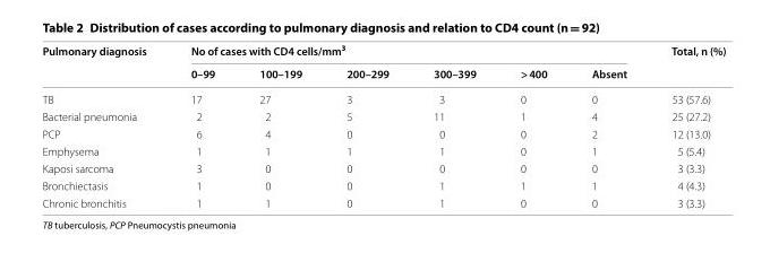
<table><thead><tr><td rowspan="2">Pulmonary diagnosis</td><td colspan="6">No of cases with CD4 cells/mm<sup>3</sup></td><td rowspan="2">Total, n (%)</td></tr><tr><td>0–99</td><td>100–199</td><td>200–299</td><td>300–399</td><td>&gt; 400</td><td>Absent</td></tr></thead><tbody><tr><td>TB</td><td>17</td><td>27</td><td>3</td><td>3</td><td>0</td><td>0</td><td>53 (57.6)</td></tr><tr><td>Bacterial pneumonia</td><td>2</td><td>2</td><td>5</td><td>11</td><td>1</td><td>4</td><td>25 (27.2)</td></tr><tr><td>PCP</td><td>6</td><td>4</td><td>0</td><td>0</td><td>0</td><td>2</td><td>12 (13.0)</td></tr><tr><td>Emphysema</td><td>1</td><td>1</td><td>1</td><td>1</td><td>0</td><td>1</td><td>5 (5.4)</td></tr><tr><td>Kaposi sarcoma</td><td>3</td><td>0</td><td>0</td><td>0</td><td>0</td><td>0</td><td>3 (3.3)</td></tr><tr><td>Bronchiectasis</td><td>1</td><td>0</td><td>0</td><td>1</td><td>1</td><td>1</td><td>4 (4.3)</td></tr><tr><td>Chronic bronchitis</td><td>1</td><td>1</td><td>0</td><td>1</td><td>0</td><td>0</td><td>3 (3.3)</td></tr></tbody></table>